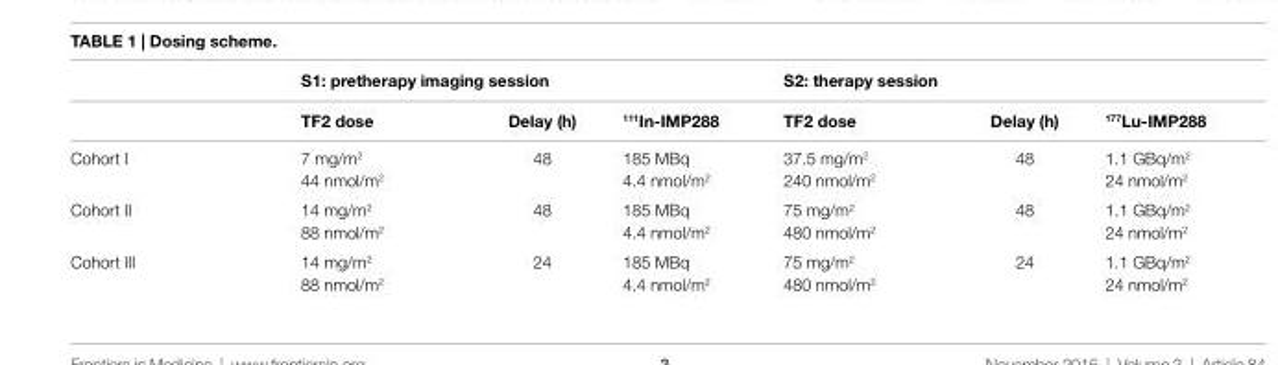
<table><thead><tr><td rowspan="2"></td><td colspan="3">S1: pretherapy imaging session</td><td colspan="3">S2: therapy session</td></tr><tr><td>TF2 dose</td><td>Delay (h)</td><td><sup>111</sup>in-iMP288</td><td>TF2 dose</td><td>Delay (h)</td><td><sup>177</sup>lu-iMP288</td></tr></thead><tbody><tr><td rowspan="2">Cohort I</td><td>7 mg/m<sup>2</sup></td><td rowspan="2">48</td><td>185 MBq</td><td>37.5 mg/m<sup>2</sup></td><td rowspan="2">48</td><td>1.1 GBq/m<sup>2</sup></td></tr><tr><td>44 nmol/m<sup>2</sup></td><td>4.4 nmol/m<sup>2</sup></td><td>240 nmol/m<sup>2</sup></td><td>24 nmol/m<sup>2</sup></td></tr><tr><td rowspan="2">Cohort II</td><td>14 mg/m<sup>2</sup></td><td rowspan="2">48</td><td>185 MBq</td><td>75 mg/m<sup>2</sup></td><td rowspan="2">48</td><td>1.1 GBq/m<sup>2</sup></td></tr><tr><td>88 nmol/m<sup>2</sup></td><td>4.4 nmol/m<sup>2</sup></td><td>480 nmol/m<sup>2</sup></td><td>24 nmol/m<sup>2</sup></td></tr><tr><td rowspan="2">Cohort III</td><td>14 mg/m<sup>2</sup></td><td rowspan="2">24</td><td>185 MBq</td><td>75 mg/m<sup>2</sup></td><td rowspan="2">24</td><td>1.1 GBq/m<sup>2</sup></td></tr><tr><td>88 nmol/m<sup>2</sup></td><td>4.4 nmol/m<sup>2</sup></td><td>480 nmol/m<sup>2</sup></td><td>24 nmol/m<sup>2</sup></td></tr></tbody></table>